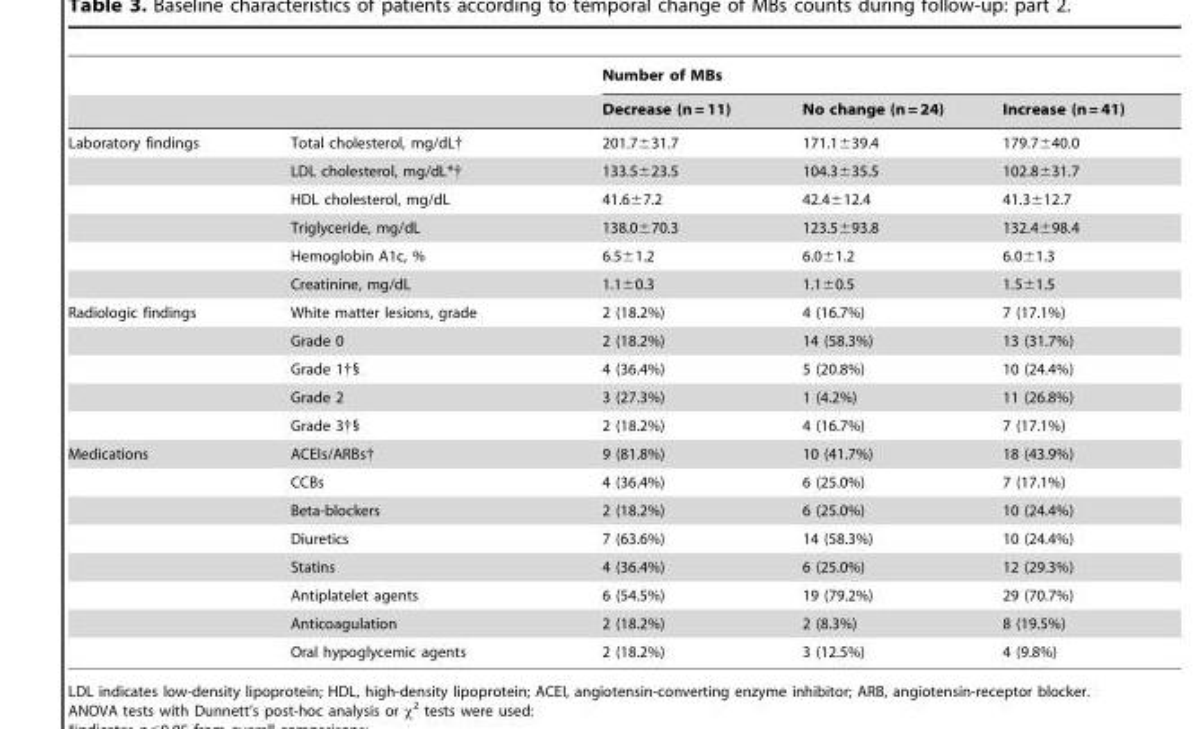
<table><thead><tr><td rowspan="2"></td><td rowspan="2"></td><td colspan="3">Number of MBs</td></tr><tr><td>Decrease (n = 11)</td><td>No change (n = 24)</td><td>Increase (n = 41)</td></tr></thead><tbody><tr><td rowspan="6">Laboratory findings</td><td>Total cholesterol, mg/dL†</td><td>201.7±31.7</td><td>171.1±39.4</td><td>179.7±40.0</td></tr><tr><td>LDL cholesterol, mg/dL*†</td><td>133.5±23.5</td><td>104.3±35.5</td><td>102.8±31.7</td></tr><tr><td>HDL cholesterol, mg/dL</td><td>41.6±7.2</td><td>42.4±12.4</td><td>41.3±12.7</td></tr><tr><td>Triglyceride, mg/dL</td><td>138.0±70.3</td><td>123.5±93.8</td><td>132.4±98.4</td></tr><tr><td>Hemoglobin A1c, %</td><td>6.5±1.2</td><td>6.0±1.2</td><td>6.0±1.3</td></tr><tr><td>Creatinine, mg/dL</td><td>1.1±0.3</td><td>1.1±0.5</td><td>1.5±1.5</td></tr><tr><td rowspan="5">Radiologic findings</td><td>White matter lesions, grade</td><td>2 (18.2%)</td><td>4 (16.7%)</td><td>7 (17.1%)</td></tr><tr><td>Grade 0</td><td>2 (18.2%)</td><td>14 (58.3%)</td><td>13 (31.7%)</td></tr><tr><td>Grade 1†§</td><td>4 (36.4%)</td><td>5 (20.8%)</td><td>10 (24.4%)</td></tr><tr><td>Grade 2</td><td>3 (27.3%)</td><td>1 (4.2%)</td><td>11 (26.8%)</td></tr><tr><td>Grade 3†§</td><td>2 (18.2%)</td><td>4 (16.7%)</td><td>7 (17.1%)</td></tr><tr><td rowspan="8">Medications</td><td>ACEIs/ARBs†</td><td>9 (81.8%)</td><td>10 (41.7%)</td><td>18 (43.9%)</td></tr><tr><td>CCBs</td><td>4 (36.4%)</td><td>6 (25.0%)</td><td>7 (17.1%)</td></tr><tr><td>Beta-blockers</td><td>2 (18.2%)</td><td>6 (25.0%)</td><td>10 (24.4%)</td></tr><tr><td>Diuretics</td><td>7 (63.6%)</td><td>14 (58.3%)</td><td>10 (24.4%)</td></tr><tr><td>Statins</td><td>4 (36.4%)</td><td>6 (25.0%)</td><td>12 (29.3%)</td></tr><tr><td>Antiplatelet agents</td><td>6 (54.5%)</td><td>19 (79.2%)</td><td>29 (70.7%)</td></tr><tr><td>Anticoagulation</td><td>2 (18.2%)</td><td>2 (8.3%)</td><td>8 (19.5%)</td></tr><tr><td>Oral hypoglycemic agents</td><td>2 (18.2%)</td><td>3 (12.5%)</td><td>4 (9.8%)</td></tr></tbody></table>